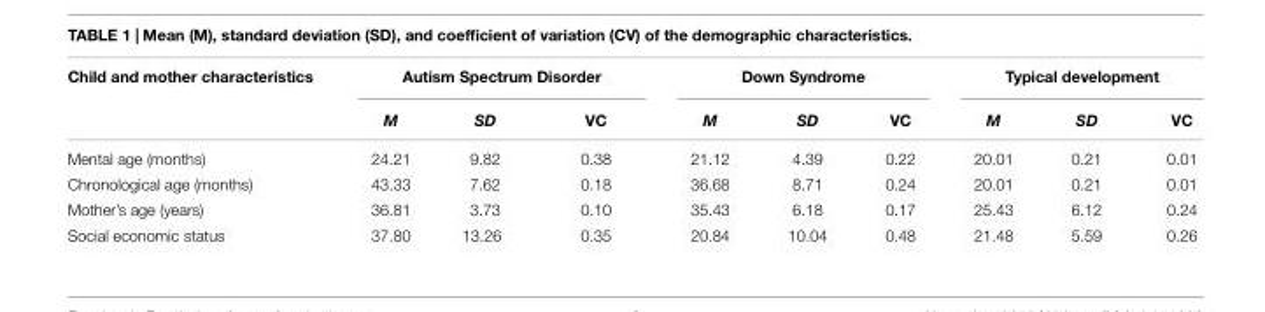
<table><thead><tr><td rowspan="2">Child and mother characteristics</td><td colspan="3">Autism Spectrum Disorder</td><td colspan="3">Down Syndrome</td><td colspan="3">Typical development</td></tr><tr><td>M</td><td>SD</td><td>VC</td><td>M</td><td>SD</td><td>VC</td><td>M</td><td>SD</td><td>VC</td></tr></thead><tbody><tr><td>Mental age (months)</td><td>24.21</td><td>9.82</td><td>0.38</td><td>21.12</td><td>4.39</td><td>0.22</td><td>20.01</td><td>0.21</td><td>0.01</td></tr><tr><td>Chronological age (months)</td><td>43.33</td><td>7.62</td><td>0.18</td><td>36.68</td><td>8.71</td><td>0.24</td><td>20.01</td><td>0.21</td><td>0.01</td></tr><tr><td>Mother’s age (years)</td><td>36.81</td><td>3.73</td><td>0.10</td><td>35.43</td><td>6.18</td><td>0.17</td><td>25.43</td><td>6.12</td><td>0.24</td></tr><tr><td>Social economic status</td><td>37.80</td><td>13.26</td><td>0.35</td><td>20.84</td><td>10.04</td><td>0.48</td><td>21.48</td><td>5.59</td><td>0.26</td></tr></tbody></table>